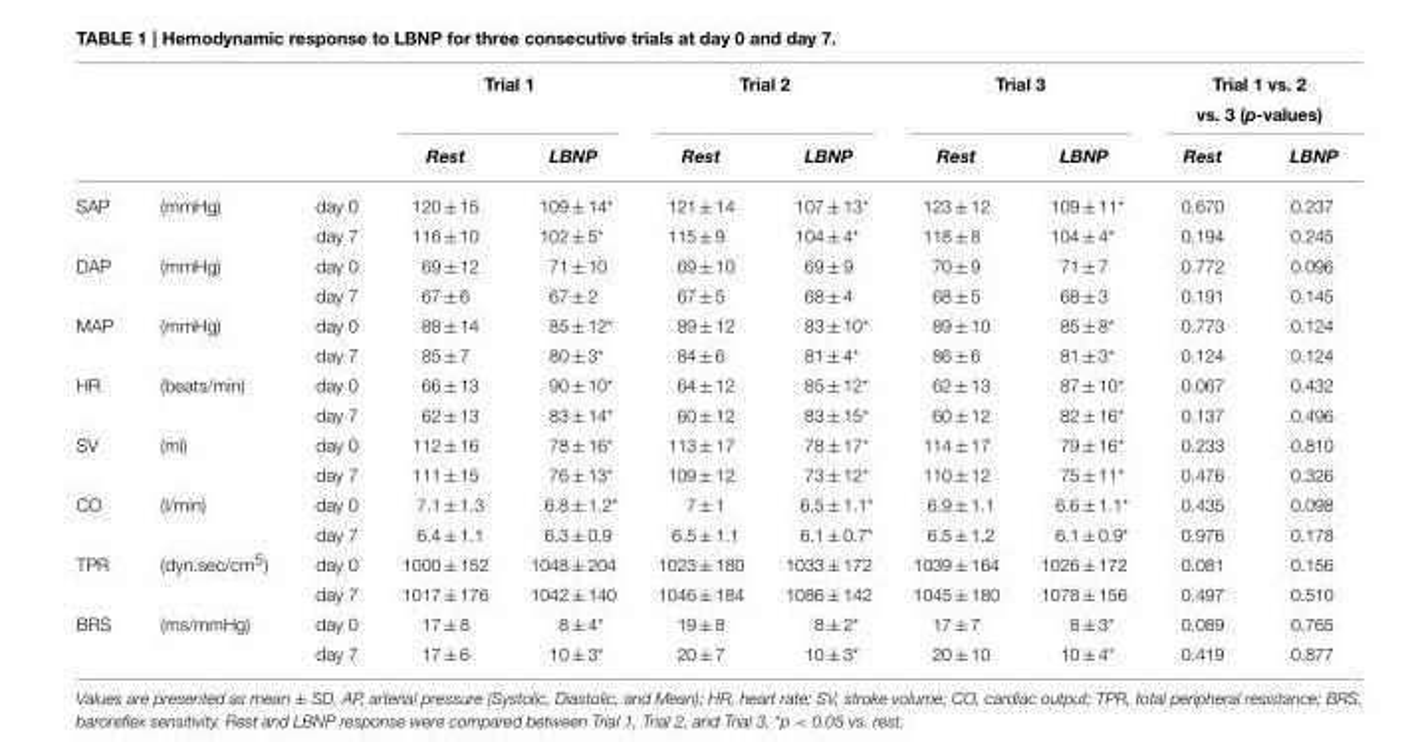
<table><thead><tr><td rowspan="2"></td><td rowspan="2"></td><td rowspan="2"></td><td colspan="2">Trial 1</td><td colspan="2">Trial 2</td><td colspan="2">Trial 3</td><td colspan="2">Trial 1 vs. 2 vs. 3 (p-values)</td></tr><tr><td>Rest</td><td>LBNP</td><td>Rest</td><td>LBNP</td><td>Rest</td><td>LBNP</td><td>Rest</td><td>LBNP</td></tr></thead><tbody><tr><td rowspan="2">SAP</td><td>(mmHg)</td><td>day 0</td><td>120 ± 15</td><td>109 ± 14*</td><td>121 ± 14</td><td>107 ± 13*</td><td>123 ± 12</td><td>109 ± 11*</td><td>0.670</td><td>0.237</td></tr><tr><td></td><td>day 7</td><td>116 ± 10</td><td>102 ± 5*</td><td>115 ± 9</td><td>104 ± 4*</td><td>118 ± 8</td><td>104 ± 4*</td><td>0.194</td><td>0.245</td></tr><tr><td rowspan="2">DAP</td><td>(mmHg)</td><td>day 0</td><td>69 ± 12</td><td>71 ± 10</td><td>69 ± 10</td><td>69 ± 9</td><td>70 ± 9</td><td>71 ± 7</td><td>0.772</td><td>0.096</td></tr><tr><td></td><td>day 7</td><td>67 ± 6</td><td>67 ± 2</td><td>67 ± 5</td><td>68 ± 4</td><td>68 ± 5</td><td>68 ± 3</td><td>0.191</td><td>0.145</td></tr><tr><td rowspan="2">MAP</td><td>(mmHg)</td><td>day 0</td><td>88 ± 14</td><td>85 ± 12*</td><td>89 ± 12</td><td>83 ± 10*</td><td>89 ± 10</td><td>85 ± 8*</td><td>0.773</td><td>0.124</td></tr><tr><td></td><td>day 7</td><td>85 ± 7</td><td>80 ± 3*</td><td>84 ± 6</td><td>81 ± 4*</td><td>86 ± 6</td><td>81 ± 3*</td><td>0.124</td><td>0.124</td></tr><tr><td rowspan="2">HR</td><td>(beats/min)</td><td>day 0</td><td>66 ± 13</td><td>90 ± 10*</td><td>64 ± 12</td><td>85 ± 12*</td><td>62 ± 13</td><td>87 ± 10*</td><td>0.067</td><td>0.432</td></tr><tr><td></td><td>day 7</td><td>62 ± 13</td><td>83 ± 14*</td><td>60 ± 12</td><td>83 ± 15*</td><td>60 ± 12</td><td>82 ± 16*</td><td>0.137</td><td>0.496</td></tr><tr><td rowspan="2">SV</td><td>(ml)</td><td>day 0</td><td>112 ± 16</td><td>78 ± 16*</td><td>113 ± 17</td><td>78 ± 17*</td><td>114 ± 17</td><td>79 ± 16*</td><td>0.233</td><td>0.810</td></tr><tr><td></td><td>day 7</td><td>111 ± 15</td><td>76 ± 13*</td><td>109 ± 12</td><td>73 ± 12*</td><td>110 ± 12</td><td>75 ± 11*</td><td>0.476</td><td>0.326</td></tr><tr><td rowspan="2">CO</td><td>(l/min)</td><td>day 0</td><td>7.1 ± 1.3</td><td>6.8 ± 1.2*</td><td>7 ± 1</td><td>6.5 ± 1.1*</td><td>6.9 ± 1.1</td><td>6.6 ± 1.1*</td><td>0.435</td><td>0.098</td></tr><tr><td></td><td>day 7</td><td>6.4 ± 1.1</td><td>6.3 ± 0.9</td><td>6.5 ± 1.1</td><td>6.1 ± 0.7*</td><td>6.5 ± 1.2</td><td>6.1 ± 0.9*</td><td>0.976</td><td>0.178</td></tr><tr><td rowspan="2">TPR</td><td>(dyn.sec/cm<sup>5</sup>)</td><td>day 0</td><td>1000 ± 152</td><td>1048 ± 204</td><td>1023 ± 180</td><td>1033 ± 172</td><td>1039 ± 164</td><td>1026 ± 172</td><td>0.081</td><td>0.156</td></tr><tr><td></td><td>day 7</td><td>1017 ± 176</td><td>1042 ± 140</td><td>1046 ± 184</td><td>1086 ± 142</td><td>1045 ± 180</td><td>1078 ± 156</td><td>0.497</td><td>0.510</td></tr><tr><td rowspan="2">BRS</td><td>(ms/mmHg)</td><td>day 0</td><td>17 ± 8</td><td>8 ± 4*</td><td>19 ± 8</td><td>8 ± 2*</td><td>17 ± 7</td><td>8 ± 3*</td><td>0.089</td><td>0.765</td></tr><tr><td></td><td>day 7</td><td>17 ± 6</td><td>10 ± 3*</td><td>20 ± 7</td><td>10 ± 3*</td><td>20 ± 10</td><td>10 ± 4*</td><td>0.419</td><td>0.877</td></tr></tbody></table>